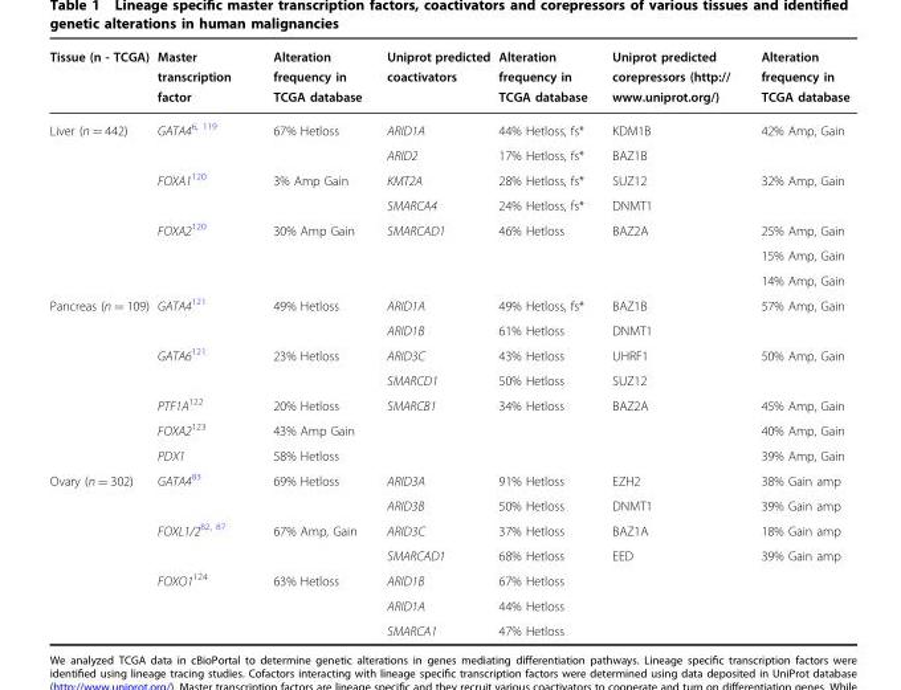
<table><thead><tr><td>Tissue (n - TCGA)</td><td>Master transcription factor</td><td>Alteration frequency in TCGA database</td><td>Uniprot predicted coactivators</td><td>Alteration frequency in TCGA database</td><td>Uniprot predicted corepressors (http:// www.uniprot.org/)</td><td>Alteration frequency in TCGA database</td></tr></thead><tbody><tr><td rowspan="7">Liver (n = 442)</td><td>GATA4<sup>6, 119</sup></td><td>67% Hetloss</td><td>ARID1A</td><td>44% Hetloss, fs*</td><td>KDM1B</td><td>42% Amp, Gain</td></tr><tr><td></td><td></td><td>ARID2</td><td>17% Hetloss, fs*</td><td>BAZ1B</td><td></td></tr><tr><td>FOXA1<sup>120</sup></td><td>3% Amp Gain</td><td>KMT2A</td><td>28% Hetloss, fs*</td><td>SUZ12</td><td>32% Amp, Gain</td></tr><tr><td></td><td></td><td>SMARCA4</td><td>24% Hetloss, fs*</td><td>DNMT1</td><td></td></tr><tr><td>FOXA2<sup>120</sup></td><td>30% Amp Gain</td><td>SMARCAD1</td><td>46% Hetloss</td><td>BAZ2A</td><td>25% Amp, Gain</td></tr><tr><td></td><td></td><td></td><td></td><td></td><td>15% Amp, Gain</td></tr><tr><td></td><td></td><td></td><td></td><td></td><td>14% Amp, Gain</td></tr><tr><td rowspan="7">Pancreas (n = 109)</td><td>GATA4<sup>121</sup></td><td>49% Hetloss</td><td>ARID1A</td><td>49% Hetloss, fs*</td><td>BAZ1B</td><td>57% Amp, Gain</td></tr><tr><td></td><td></td><td>ARID1B</td><td>61% Hetloss</td><td>DNMT1</td><td></td></tr><tr><td>GATA6<sup>121</sup></td><td>23% Hetloss</td><td>ARID3C</td><td>43% Hetloss</td><td>UHRF1</td><td>50% Amp, Gain</td></tr><tr><td></td><td></td><td>SMARCD1</td><td>50% Hetloss</td><td>SUZ12</td><td></td></tr><tr><td>PTF1A<sup>122</sup></td><td>20% Hetloss</td><td>SMARCB1</td><td>34% Hetloss</td><td>BAZ2A</td><td>45% Amp, Gain</td></tr><tr><td>FOXA2<sup>123</sup></td><td>43% Amp Gain</td><td></td><td></td><td></td><td>40% Amp, Gain</td></tr><tr><td>PDX1</td><td>58% Hetloss</td><td></td><td></td><td></td><td>39% Amp, Gain</td></tr><tr><td rowspan="7">Ovary (n = 302)</td><td>GATA4<sup>83</sup></td><td>69% Hetloss</td><td>ARID3A</td><td>91% Hetloss</td><td>EZH2</td><td>38% Gain amp</td></tr><tr><td></td><td></td><td>ARID3B</td><td>50% Hetloss</td><td>DNMT1</td><td>39% Gain amp</td></tr><tr><td>FOXL1/2<sup>82, 87</sup></td><td>67% Amp, Gain</td><td>ARID3C</td><td>37% Hetloss</td><td>BAZ1A</td><td>18% Gain amp</td></tr><tr><td></td><td></td><td>SMARCAD1</td><td>68% Hetloss</td><td>EED</td><td>39% Gain amp</td></tr><tr><td>FOXO1<sup>124</sup></td><td>63% Hetloss</td><td>ARID1B</td><td>67% Hetloss</td><td></td><td></td></tr><tr><td></td><td></td><td>ARID1A</td><td>44% Hetloss</td><td></td><td></td></tr><tr><td></td><td></td><td>SMARCA1</td><td>47% Hetloss</td><td></td><td></td></tr></tbody></table>